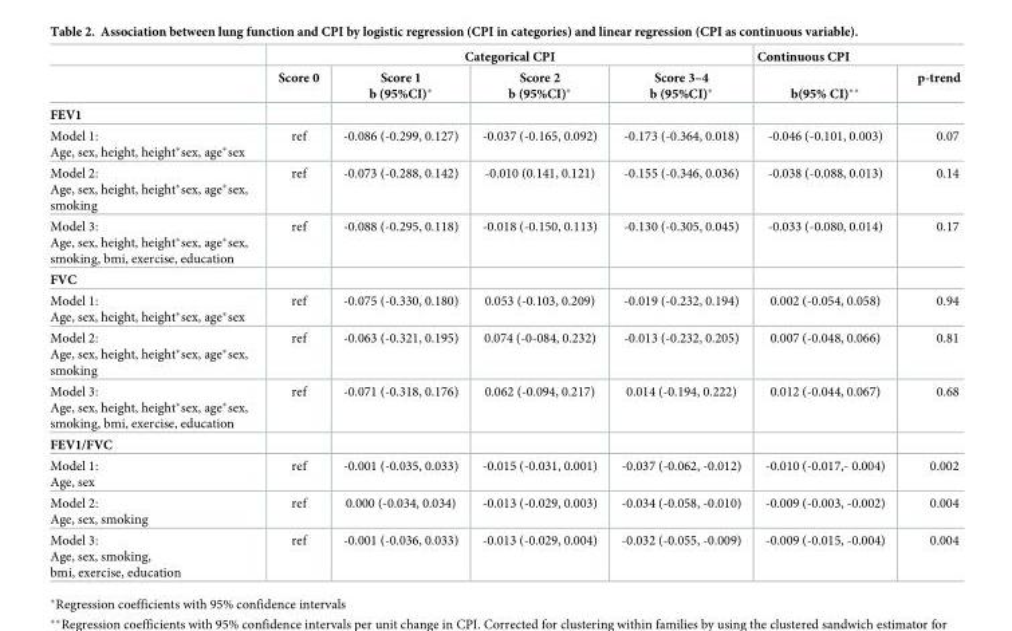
<table><thead><tr><td rowspan="2"></td><td colspan="4">Categorical CPI</td><td colspan="2">Continuous CPI</td></tr><tr><td>Score 0</td><td>Score 1 b (95%CI)*</td><td>Score 2 b (95%CI)*</td><td>Score 3–4 b (95%CI)*</td><td>b(95% CI)**</td><td>p-trend</td></tr></thead><tbody><tr><td colspan="7">FEV1</td></tr><tr><td>Model 1: Age, sex, height, height*sex, age*sex</td><td>ref</td><td>-0.086 (-0.299, 0.127)</td><td>-0.037 (-0.165, 0.092)</td><td>-0.173 (-0.364, 0.018)</td><td>-0.046 (-0.101, 0.003)</td><td>0.07</td></tr><tr><td>Model 2: Age, sex, height, height*sex, age*sex, smoking</td><td>ref</td><td>-0.073 (-0.288, 0.142)</td><td>-0.010 (0.141, 0.121)</td><td>-0.155 (-0.346, 0.036)</td><td>-0.038 (-0.088, 0.013)</td><td>0.14</td></tr><tr><td>Model 3: Age, sex, height, height*sex, age*sex, smoking, bmi, exercise, education</td><td>ref</td><td>-0.088 (-0.295, 0.118)</td><td>-0.018 (-0.150, 0.113)</td><td>-0.130 (-0.305, 0.045)</td><td>-0.033 (-0.080, 0.014)</td><td>0.17</td></tr><tr><td colspan="7">FVC</td></tr><tr><td>Model 1: Age, sex, height, height*sex, age*sex</td><td>ref</td><td>-0.075 (-0.330, 0.180)</td><td>0.053 (-0.103, 0.209)</td><td>-0.019 (-0.232, 0.194)</td><td>0.002 (-0.054, 0.058)</td><td>0.94</td></tr><tr><td>Model 2: Age, sex, height, height*sex, age*sex, smoking</td><td>ref</td><td>-0.063 (-0.321, 0.195)</td><td>0.074 (-0-084, 0.232)</td><td>-0.013 (-0.232, 0.205)</td><td>0.007 (-0.048, 0.066)</td><td>0.81</td></tr><tr><td>Model 3: Age, sex, height, height*sex, age*sex, smoking, bmi, exercise, education</td><td>ref</td><td>-0.071 (-0.318, 0.176)</td><td>0.062 (-0.094, 0.217)</td><td>0.014 (-0.194, 0.222)</td><td>0.012 (-0.044, 0.067)</td><td>0.68</td></tr><tr><td colspan="7">FEV1/FVC</td></tr><tr><td>Model 1: Age, sex</td><td>ref</td><td>-0.001 (-0.035, 0.033)</td><td>-0.015 (-0.031, 0.001)</td><td>-0.037 (-0.062, -0.012)</td><td>-0.010 (-0.017,- 0.004)</td><td>0.002</td></tr><tr><td>Model 2: Age, sex, smoking</td><td>ref</td><td>0.000 (-0.034, 0.034)</td><td>-0.013 (-0.029, 0.003)</td><td>-0.034 (-0.058, -0.010)</td><td>-0.009 (-0.003, -0.002)</td><td>0.004</td></tr><tr><td>Model 3: Age, sex, smoking, bmi, exercise, education</td><td>ref</td><td>-0.001 (-0.036, 0.033)</td><td>-0.013 (-0.029, 0.004)</td><td>-0.032 (-0.055, -0.009)</td><td>-0.009 (-0.015, -0.004)</td><td>0.004</td></tr></tbody></table>